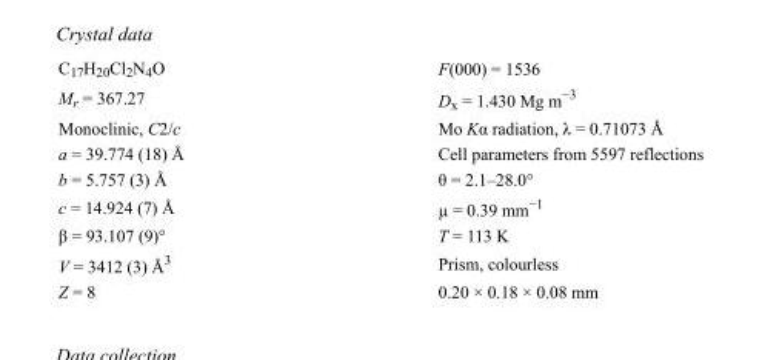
<table><tbody><tr><td>C<sub>17</sub>H<sub>20</sub>Cl<sub>2</sub>N<sub>4</sub>O</td><td>F(000) = 1536</td></tr><tr><td>M<sub>r</sub> = 367.27</td><td>D<sub>x</sub> = 1.430 Mg m<sup>−3</sup></td></tr><tr><td>Monoclinic, C2/c</td><td>Mo Kα radiation, λ = 0.71073 Å</td></tr><tr><td>a = 39.774 (18) Å</td><td>Cell parameters from 5597 reflections</td></tr><tr><td>b = 5.757 (3) Å</td><td>θ = 2.1–28.0°</td></tr><tr><td>c = 14.924 (7) Å</td><td>µ = 0.39 mm<sup>−1</sup></td></tr><tr><td>β = 93.107 (9)°</td><td>T = 113 K</td></tr><tr><td>V = 3412 (3) Å<sup>3</sup></td><td>Prism, colourless</td></tr><tr><td>Z = 8</td><td>0.20 × 0.18 × 0.08 mm</td></tr></tbody></table>